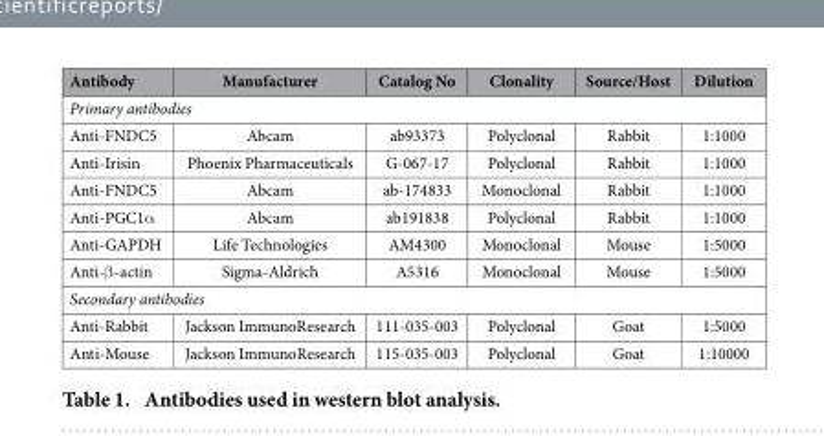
<table><thead><tr><td>Antibody</td><td>Manufacturer</td><td>Catalog No</td><td>Clonality</td><td>Source/Host</td><td>Dilution</td></tr></thead><tbody><tr><td colspan="6">Primary antibodies</td></tr><tr><td>Anti-FNDC5</td><td>Abcam</td><td>ab93373</td><td>Polyclonal</td><td>Rabbit</td><td>1:1000</td></tr><tr><td>Anti-Irisin</td><td>Phoenix Pharmaceuticals</td><td>G-067-17</td><td>Polyclonal</td><td>Rabbit</td><td>1:1000</td></tr><tr><td>Anti-FNDC5</td><td>Abcam</td><td>ab-174833</td><td>Monoclonal</td><td>Rabbit</td><td>1:1000</td></tr><tr><td>Anti-PGC1α</td><td>Abcam</td><td>ab191838</td><td>Polyclonal</td><td>Rabbit</td><td>1:1000</td></tr><tr><td>Anti-GAPDH</td><td>Life Technologies</td><td>AM4300</td><td>Monoclonal</td><td>Mouse</td><td>1:5000</td></tr><tr><td>Anti-β -actin</td><td>Sigma-Aldrich</td><td>A5316</td><td>Monoclonal</td><td>Mouse</td><td>1:5000</td></tr><tr><td colspan="6">Secondary antibodies</td></tr><tr><td>Anti-Rabbit</td><td>Jackson ImmunoResearch</td><td>111-035-003</td><td>Polyclonal</td><td>Goat</td><td>1:5000</td></tr><tr><td>Anti-Mouse</td><td>Jackson ImmunoResearch</td><td>115-035-003</td><td>Polyclonal</td><td>Goat</td><td>1:10000</td></tr></tbody></table>